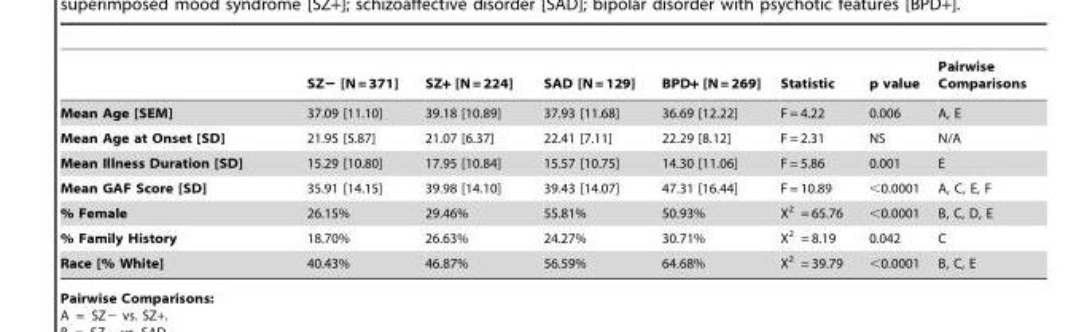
<table><thead><tr><td></td><td>SZ− [N = 371]</td><td>SZ+ [N = 224]</td><td>SAD [N = 129]</td><td>BPD+ [N = 269]</td><td>Statistic</td><td>p value</td><td>Pairwise Comparisons</td></tr></thead><tbody><tr><td>Mean Age [SEM]</td><td>37.09 [11.10]</td><td>39.18 [10.89]</td><td>37.93 [11.68]</td><td>36.69 [12.22]</td><td>F = 4.22</td><td>0.006</td><td>A, E</td></tr><tr><td>Mean Age at Onset [SD]</td><td>21.95 [5.87]</td><td>21.07 [6.37]</td><td>22.41 [7.11]</td><td>22.29 [8.12]</td><td>F = 2.31</td><td>NS</td><td>N/A</td></tr><tr><td>Mean Illness Duration [SD]</td><td>15.29 [10.80]</td><td>17.95 [10.84]</td><td>15.57 [10.75]</td><td>14.30 [11.06]</td><td>F = 5.86</td><td>0.001</td><td>E</td></tr><tr><td>Mean GAF Score [SD]</td><td>35.91 [14.15]</td><td>39.98 [14.10]</td><td>39.43 [14.07]</td><td>47.31 [16.44]</td><td>F = 10.89</td><td>&lt;0.0001</td><td>A, C, E, F</td></tr><tr><td>% Female</td><td>26.15%</td><td>29.46%</td><td>55.81%</td><td>50.93%</td><td>X<sup>2</sup> = 65.76</td><td>&lt;0.0001</td><td>B, C, D, E</td></tr><tr><td>% Family History</td><td>18.70%</td><td>26.63%</td><td>24.27%</td><td>30.71%</td><td>X<sup>2</sup> = 8.19</td><td>0.042</td><td>C</td></tr><tr><td>Race [% White]</td><td>40.43%</td><td>46.87%</td><td>56.59%</td><td>64.68%</td><td>X<sup>2</sup> = 39.79</td><td>&lt;0.0001</td><td>B, C, E</td></tr></tbody></table>